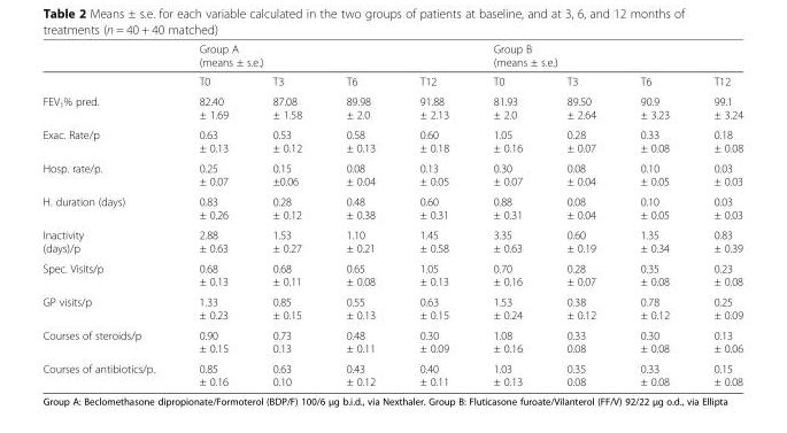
<table><thead><tr><td rowspan="2"></td><td colspan="4">Group A (means ± s.e.)</td><td colspan="4">Group B (means ± s.e.)</td></tr><tr><td>T0</td><td>T3</td><td>T6</td><td>T12</td><td>T0</td><td>T3</td><td>T6</td><td>T12</td></tr></thead><tbody><tr><td>FEV<sub>1</sub>% pred.</td><td>82.40 ± 1.69</td><td>87.08 ± 1.58</td><td>89.98 ± 2.0</td><td>91.88 ± 2.13</td><td>81.93 ± 2.0</td><td>89.50 ± 2.64</td><td>90.9 ± 3.23</td><td>99.1 ± 3.24</td></tr><tr><td>Exac. Rate/p</td><td>0.63 ± 0.13</td><td>0.53 ± 0.12</td><td>0.58 ± 0.13</td><td>0.60 ± 0.18</td><td>1.05 ± 0.16</td><td>0.28 ± 0.07</td><td>0.33 ± 0.08</td><td>0.18 ± 0.08</td></tr><tr><td>Hosp. rate/p.</td><td>0.25 ± 0.07</td><td>0.15 ±0.06</td><td>0.08 ± 0.04</td><td>0.13 ± 0.05</td><td>0.30 ± 0.07</td><td>0.08 ± 0.04</td><td>0.10 ± 0.05</td><td>0.03 ± 0.03</td></tr><tr><td>H. duration (days)</td><td>0.83 ± 0.26</td><td>0.28 ± 0.12</td><td>0.48 ± 0.38</td><td>0.60 ± 0.31</td><td>0.88 ± 0.31</td><td>0.08 ± 0.04</td><td>0.10 ± 0.05</td><td>0.03 ± 0.03</td></tr><tr><td>Inactivity (days)/p</td><td>2.88 ± 0.63</td><td>1.53 ± 0.27</td><td>1.10 ± 0.21</td><td>1.45 ± 0.58</td><td>3.35 ± 0.63</td><td>0.60 ± 0.19</td><td>1.35 ± 0.34</td><td>0.83 ± 0.39</td></tr><tr><td>Spec. Visits/p</td><td>0.68 ± 0.13</td><td>0.68 ± 0.11</td><td>0.65 ± 0.08</td><td>1.05 ± 0.13</td><td>0.70 ± 0.16</td><td>0.28 ± 0.07</td><td>0.35 ± 0.08</td><td>0.23 ± 0.08</td></tr><tr><td>GP visits/p</td><td>1.33 ± 0.23</td><td>0.85 ± 0.15</td><td>0.55 ± 0.13</td><td>0.63 ± 0.15</td><td>1.53 ± 0.24</td><td>0.38 ± 0.12</td><td>0.78 ± 0.12</td><td>0.25 ± 0.09</td></tr><tr><td>Courses of steroids/p</td><td>0.90 ± 0.15</td><td>0.73 0.13</td><td>0.48 ± 0.11</td><td>0.30 ± 0.09</td><td>1.08 ± 0.16</td><td>0.33 0.08</td><td>0.30 ± 0.08</td><td>0.13 ± 0.06</td></tr><tr><td>Courses of antibiotics/p.</td><td>0.85 ± 0.16</td><td>0.63 0.10</td><td>0.43 ± 0.12</td><td>0.40 ± 0.11</td><td>1.03 ± 0.13</td><td>0.35 0.08</td><td>0.33 ± 0.08</td><td>0.15 ± 0.08</td></tr></tbody></table>